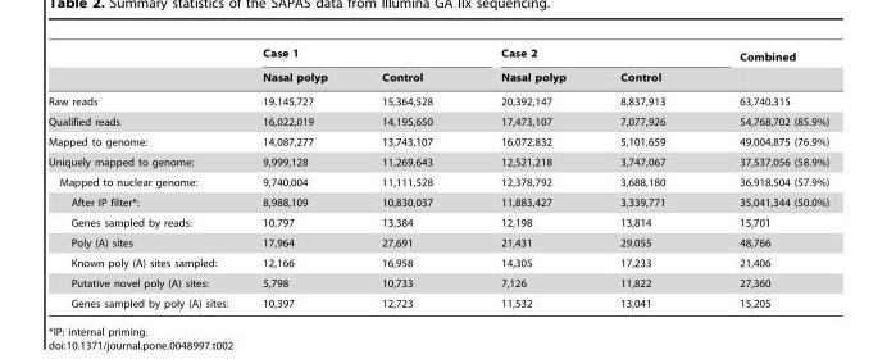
<table><thead><tr><td rowspan="2"></td><td colspan="2">Case 1</td><td colspan="2">Case 2</td><td rowspan="2">Combined</td></tr><tr><td>Nasal polyp</td><td>Control</td><td>Nasal polyp</td><td>Control</td></tr></thead><tbody><tr><td>Raw reads</td><td>19,145,727</td><td>15,364,528</td><td>20,392,147</td><td>8,837,913</td><td>63,740,315</td></tr><tr><td>Qualified reads</td><td>16,022,019</td><td>14,195,650</td><td>17,473,107</td><td>7,077,926</td><td>54,768,702 (85.9%)</td></tr><tr><td>Mapped to genome:</td><td>14,087,277</td><td>13,743,107</td><td>16,072,832</td><td>5,101,659</td><td>49,004,875 (76.9%)</td></tr><tr><td>Uniquely mapped to genome:</td><td>9,999,128</td><td>11,269,643</td><td>12,521,218</td><td>3,747,067</td><td>37,537,056 (58.9%)</td></tr><tr><td>Mapped to nuclear genome:</td><td>9,740,004</td><td>11,111,528</td><td>12,378,792</td><td>3,688,180</td><td>36,918,504 (57.9%)</td></tr><tr><td>After IP filter*:</td><td>8,988,109</td><td>10,830,037</td><td>11,883,427</td><td>3,339,771</td><td>35,041,344 (50.0%)</td></tr><tr><td>Genes sampled by reads:</td><td>10,797</td><td>13,384</td><td>12,198</td><td>13,814</td><td>15,701</td></tr><tr><td>Poly (A) sites</td><td>17,964</td><td>27,691</td><td>21,431</td><td>29,055</td><td>48,766</td></tr><tr><td>Known poly (A) sites sampled:</td><td>12,166</td><td>16,958</td><td>14,305</td><td>17,233</td><td>21,406</td></tr><tr><td>Putative novel poly (A) sites:</td><td>5,798</td><td>10,733</td><td>7,126</td><td>11,822</td><td>27,360</td></tr><tr><td>Genes sampled by poly (A) sites:</td><td>10,397</td><td>12,723</td><td>11,532</td><td>13,041</td><td>15,205</td></tr></tbody></table>